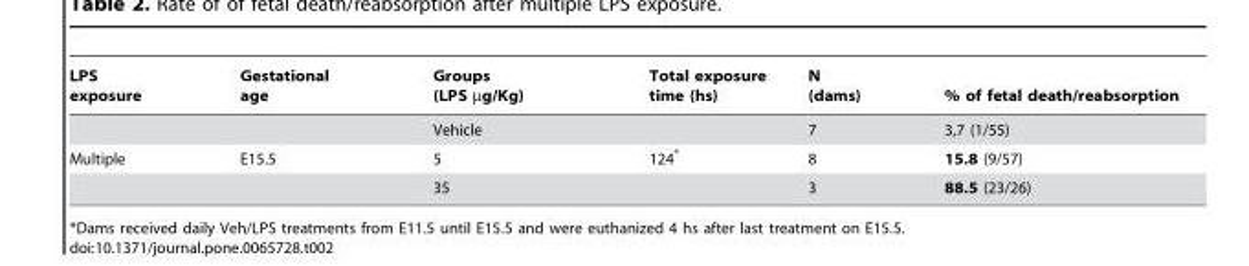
<table><thead><tr><td>LPS exposure</td><td>Gestational age</td><td>Groups (LPS µg/Kg)</td><td>Total exposure time (hs)</td><td>N (dams)</td><td>% of fetal death/reabsorption</td></tr></thead><tbody><tr><td></td><td></td><td>Vehicle</td><td></td><td>7</td><td>3,7 (1/55)</td></tr><tr><td rowspan="2">Multiple</td><td>E15.5</td><td>5</td><td>124*</td><td>8</td><td>15.8 (9/57)</td></tr><tr><td></td><td>35</td><td></td><td>3</td><td>88.5 (23/26)</td></tr></tbody></table>